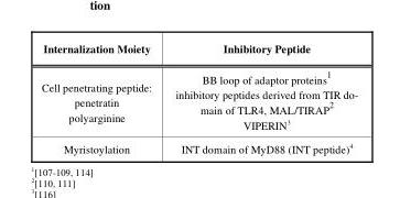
<table><thead><tr><td>Internalization Moiety</td><td>Inhibitory Peptide</td></tr></thead><tbody><tr><td>Cell penetrating peptide: penetratin polyarginine</td><td>BB loop of adaptor proteins1 inhibitory peptides derived from TIR do- main of TLR4, MAL/TIRAP2 VIPERIN3</td></tr><tr><td>Myristoylation</td><td>INT domain of MyD88 (INT peptide)<sup>4</sup></td></tr></tbody></table>